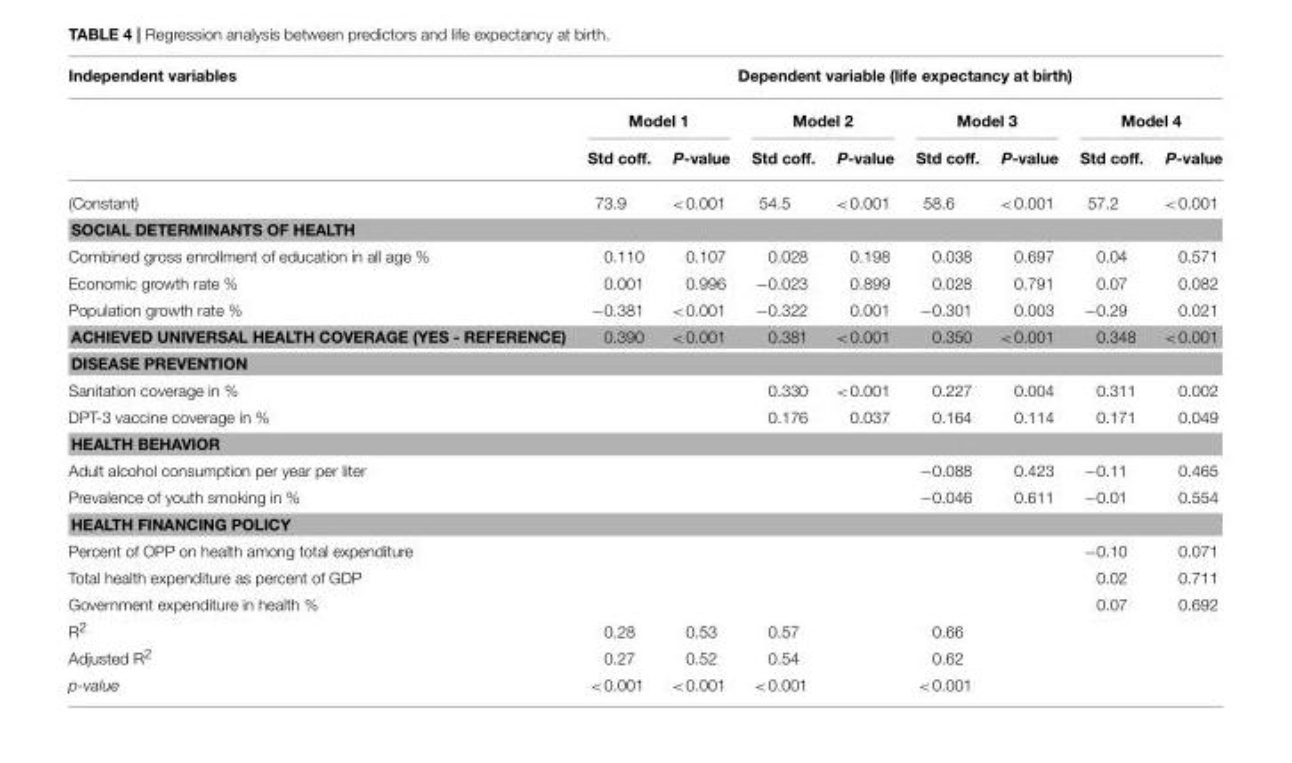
<table><thead><tr><td rowspan="3">Independent variables</td><td colspan="8">Dependent variable (life expectancy at birth)</td></tr><tr><td colspan="2">Model 1</td><td colspan="2">Model 2</td><td colspan="2">Model 3</td><td colspan="2">Model 4</td></tr><tr><td>Std coff.</td><td>P-value</td><td>Std coff.</td><td>P-value</td><td>Std coff.</td><td>P-value</td><td>Std coff.</td><td>P-value</td></tr></thead><tbody><tr><td>(Constant)</td><td>73.9</td><td>&lt;0.001</td><td>54.5</td><td>&lt;0.001</td><td>58.6</td><td>&lt;0.001</td><td>57.2</td><td>&lt;0.001</td></tr><tr><td colspan="9">SOCIAL DETERMINANTS OF HEALTH</td></tr><tr><td>Combined gross enrollment of education in all age %</td><td>0.110</td><td>0.107</td><td>0.028</td><td>0.198</td><td>0.038</td><td>0.697</td><td>0.04</td><td>0.571</td></tr><tr><td>Economic growth rate %</td><td>0.001</td><td>0.996</td><td>−0.023</td><td>0.899</td><td>0.028</td><td>0.791</td><td>0.07</td><td>0.082</td></tr><tr><td>Population growth rate %</td><td>−0.381</td><td>&lt;0.001</td><td>−0.322</td><td>0.001</td><td>−0.301</td><td>0.003</td><td>−0.29</td><td>0.021</td></tr><tr><td>ACHIEVED UNIVERSAL HEALTH COVERAGE (YES - REFERENCE)</td><td>0.390</td><td>&lt;0.001</td><td>0.381</td><td>&lt;0.001</td><td>0.350</td><td>&lt;0.001</td><td>0.348</td><td>&lt;0.001</td></tr><tr><td colspan="9">DISEASE PREVENTION</td></tr><tr><td>Sanitation coverage in %</td><td></td><td></td><td>0.330</td><td>&lt;0.001</td><td>0.227</td><td>0.004</td><td>0.311</td><td>0.002</td></tr><tr><td>DPT-3 vaccine coverage in %</td><td></td><td></td><td>0.176</td><td>0.037</td><td>0.164</td><td>0.114</td><td>0.171</td><td>0.049</td></tr><tr><td colspan="9">HEALTH BEHAVIOR</td></tr><tr><td>Adult alcohol consumption per year per liter</td><td></td><td></td><td></td><td></td><td>−0.088</td><td>0.423</td><td>−0.11</td><td>0.465</td></tr><tr><td>Prevalence of youth smoking in %</td><td></td><td></td><td></td><td></td><td>−0.046</td><td>0.611</td><td>−0.01</td><td>0.554</td></tr><tr><td colspan="9">HEALTH FINANCING POLICY</td></tr><tr><td>Percent of OPP on health among total expenditure</td><td></td><td></td><td></td><td></td><td></td><td></td><td>−0.10</td><td>0.071</td></tr><tr><td>Total health expenditure as percent of GDP</td><td></td><td></td><td></td><td></td><td></td><td></td><td>0.02</td><td>0.711</td></tr><tr><td>Government expenditure in health %</td><td></td><td></td><td></td><td></td><td></td><td></td><td>0.07</td><td>0.692</td></tr><tr><td>R<sup>2</sup></td><td>0.28</td><td>0.53</td><td>0.57</td><td></td><td>0.66</td><td></td><td></td><td></td></tr><tr><td>Adjusted R<sup>2</sup></td><td>0.27</td><td>0.52</td><td>0.54</td><td></td><td>0.62</td><td></td><td></td><td></td></tr><tr><td>p-value</td><td>&lt;0.001</td><td>&lt;0.001</td><td>&lt;0.001</td><td></td><td>&lt;0.001</td><td></td><td></td><td></td></tr></tbody></table>